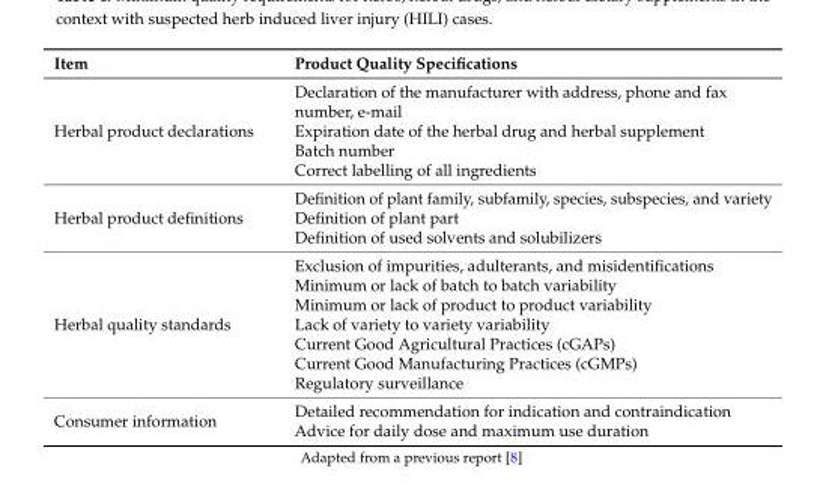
<table><thead><tr><td>Item</td><td>Product Quality Specifications</td></tr></thead><tbody><tr><td>Herbal product declarations</td><td>Declaration of the manufacturer with address, phone and fax number, e-mail Expiration date of the herbal drug and herbal supplement Batch number Correct labelling of all ingredients</td></tr><tr><td>Herbal product definitions</td><td>Definition of plant family, subfamily, species, subspecies, and variety Definition of plant part Definition of used solvents and solubilizers</td></tr><tr><td>Herbal quality standards</td><td>Exclusion of impurities, adulterants, and misidentifications Minimum or lack of batch to batch variability Minimum or lack of product to product variability Lack of variety to variety variability Current Good Agricultural Practices (cGAPs) Current Good Manufacturing Practices (cGMPs) Regulatory surveillance</td></tr><tr><td>Consumer information</td><td>Detailed recommendation for indication and contraindication Advice for daily dose and maximum use duration</td></tr></tbody></table>